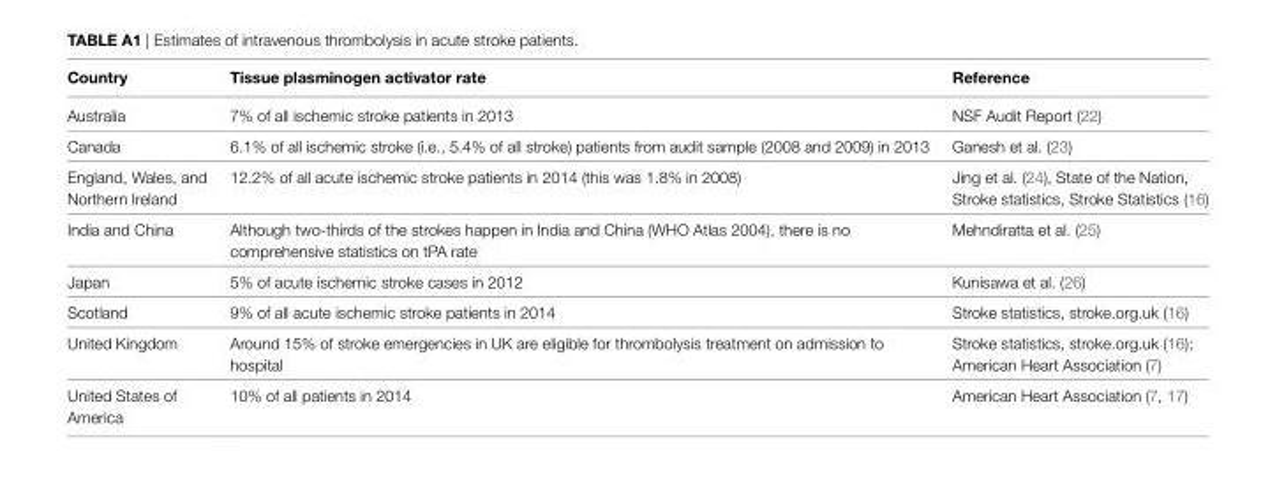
<table><thead><tr><td>country</td><td>Tissue plasminogen activator rate</td><td>reference</td></tr></thead><tbody><tr><td>Australia</td><td>7% of all ischemic stroke patients in 2013</td><td>NSF Audit Report (22)</td></tr><tr><td>Canada</td><td>6.1% of all ischemic stroke (i.e., 5.4% of all stroke) patients from audit sample (2008 and 2009) in 2013</td><td>Ganesh et al. (23)</td></tr><tr><td>England, Wales, and Northern Ireland</td><td>12.2% of all acute ischemic stroke patients in 2014 (this was 1.8% in 2008)</td><td>Jing et al. (24), State of the Nation, Stroke statistics, Stroke Statistics (16)</td></tr><tr><td>India and China</td><td>Although two-thirds of the strokes happen in India and China (WHO Atlas 2004), there is no comprehensive statistics on tPA rate</td><td>Mehndiratta et al. (25)</td></tr><tr><td>Japan</td><td>5% of acute ischemic stroke cases in 2012</td><td>Kunisawa et al. (26)</td></tr><tr><td>Scotland</td><td>9% of all acute ischemic stroke patients in 2014</td><td>Stroke statistics, stroke.org.uk (16)</td></tr><tr><td>United Kingdom</td><td>Around 15% of stroke emergencies in UK are eligible for thrombolysis treatment on admission to hospital</td><td>Stroke statistics, stroke.org.uk (16); American Heart Association (7)</td></tr><tr><td>United States of America</td><td>10% of all patients in 2014</td><td>American Heart Association (7, 17)</td></tr></tbody></table>